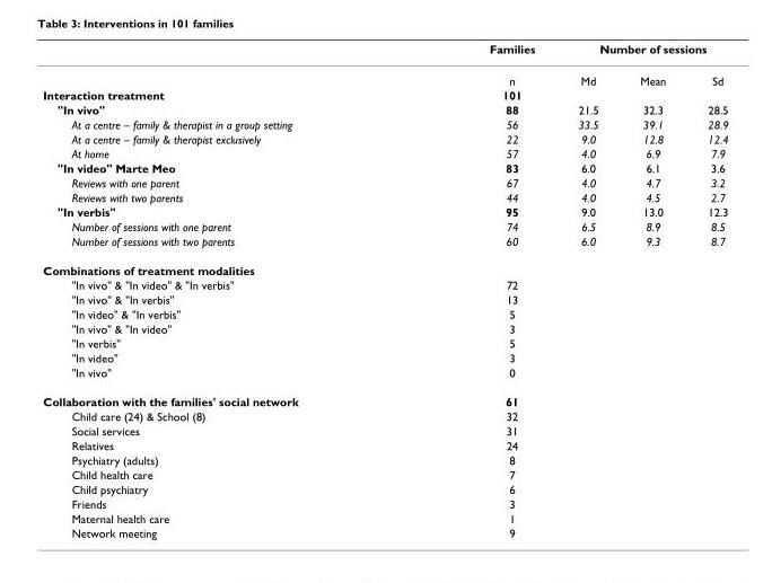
<table><thead><tr><td rowspan="2"></td><td rowspan="2">Families n</td><td colspan="3">Number of sessions</td></tr><tr><td>Md</td><td>Mean</td><td>Sd</td></tr></thead><tbody><tr><td>Interaction treatment</td><td>101</td><td></td><td></td><td></td></tr><tr><td>&quot;In vivo&quot;</td><td>88</td><td>21.5</td><td>32.3</td><td>28.5</td></tr><tr><td>At a centre – family &amp; therapist in a group setting</td><td>56</td><td>33.5</td><td>39.1</td><td>28.9</td></tr><tr><td>At a centre – family &amp; therapist exclusively</td><td>22</td><td>9.0</td><td>12.8</td><td>12.4</td></tr><tr><td>At home</td><td>57</td><td>4.0</td><td>6.9</td><td>7.9</td></tr><tr><td>&quot;In video&quot; Marte Meo</td><td>83</td><td>6.0</td><td>6.1</td><td>3.6</td></tr><tr><td>Reviews with one parent</td><td>67</td><td>4.0</td><td>4.7</td><td>3.2</td></tr><tr><td>Reviews with two parents</td><td>44</td><td>4.0</td><td>4.5</td><td>2.7</td></tr><tr><td>&quot;In verbis&quot;</td><td>95</td><td>9.0</td><td>13.0</td><td>12.3</td></tr><tr><td>Number of sessions with one parent</td><td>74</td><td>6.5</td><td>8.9</td><td>8.5</td></tr><tr><td>Number of sessions with two parents</td><td>60</td><td>6.0</td><td>9.3</td><td>8.7</td></tr><tr><td colspan="5">Combinations of treatment modalities</td></tr><tr><td>&quot;In vivo&quot; &amp; &quot;In video&quot; &amp; &quot;In verbis&quot;</td><td>72</td><td></td><td></td><td></td></tr><tr><td>&quot;In vivo&quot; &amp; &quot;In verbis&quot;</td><td>13</td><td></td><td></td><td></td></tr><tr><td>&quot;In video&quot; &amp; &quot;In verbis&quot;</td><td>5</td><td></td><td></td><td></td></tr><tr><td>&quot;In vivo&quot; &amp; &quot;In video&quot;</td><td>3</td><td></td><td></td><td></td></tr><tr><td>&quot;In verbis&quot;</td><td>5</td><td></td><td></td><td></td></tr><tr><td>&quot;In video&quot;</td><td>3</td><td></td><td></td><td></td></tr><tr><td>&quot;In vivo&quot;</td><td>0</td><td></td><td></td><td></td></tr><tr><td>Collaboration with the families&#x27; social network</td><td>61</td><td></td><td></td><td></td></tr><tr><td>Child care (24) &amp; School (8)</td><td>32</td><td></td><td></td><td></td></tr><tr><td>Social services</td><td>31</td><td></td><td></td><td></td></tr><tr><td>Relatives</td><td>24</td><td></td><td></td><td></td></tr><tr><td>Psychiatry (adults)</td><td>8</td><td></td><td></td><td></td></tr><tr><td>Child health care</td><td>7</td><td></td><td></td><td></td></tr><tr><td>Child psychiatry</td><td>6</td><td></td><td></td><td></td></tr><tr><td>Friends</td><td>3</td><td></td><td></td><td></td></tr><tr><td>Maternal health care</td><td>1</td><td></td><td></td><td></td></tr><tr><td>Network meeting</td><td>9</td><td></td><td></td><td></td></tr></tbody></table>